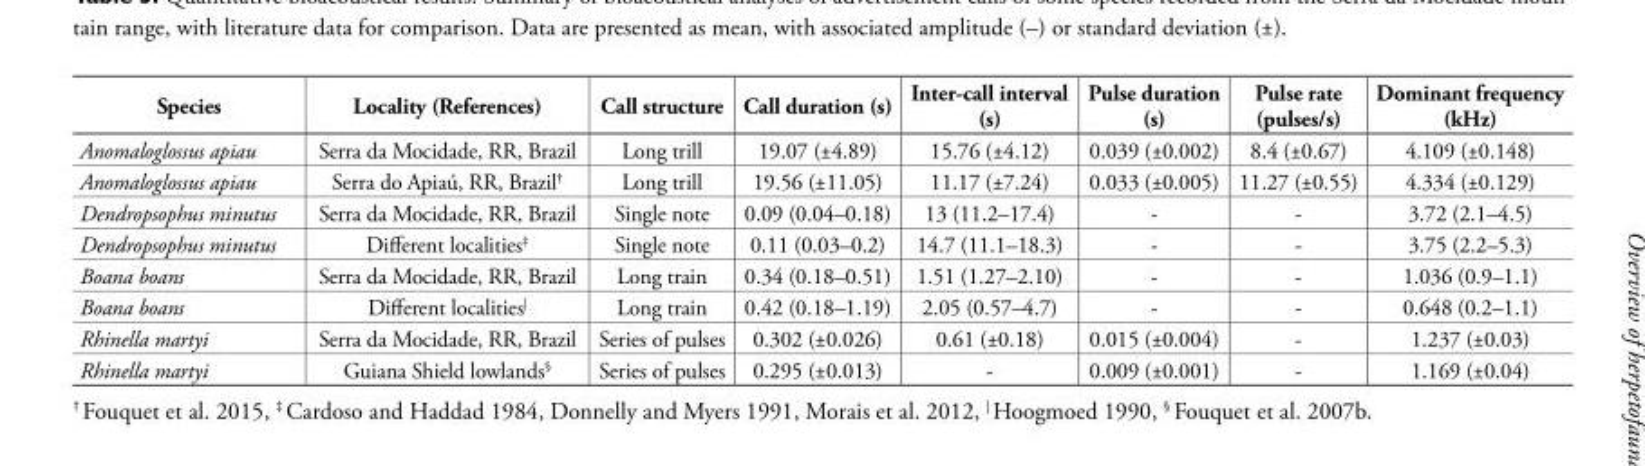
<table><thead><tr><td>Species</td><td>Locality (References)</td><td>Call structure</td><td>Call duration (s)</td><td>Inter-call interval (s)</td><td>Pulse duration (s)</td><td>Pulse rate (pulses/s)</td><td>Dominant frequency (kHz)</td></tr></thead><tbody><tr><td>Anomaloglossus apiau</td><td>Serra da Mocidade, RR, Brazil</td><td>Long trill</td><td>19.07 (±4.89)</td><td>15.76 (±4.12)</td><td>0.039 (±0.002)</td><td>8.4 (±0.67)</td><td>4.109 (±0.148)</td></tr><tr><td>Anomaloglossus apiau</td><td>Serra do Apiaú, RR, Brazil<sup>†</sup></td><td>Long trill</td><td>19.56 (±11.05)</td><td>11.17 (±7.24)</td><td>0.033 (±0.005)</td><td>11.27 (±0.55)</td><td>4.334 (±0.129)</td></tr><tr><td>Dendropsophus minutus</td><td>Serra da Mocidade, RR, Brazil</td><td>Single note</td><td>0.09 (0.04–0.18)</td><td>13 (11.2–17.4)</td><td>-</td><td>-</td><td>3.72 (2.1–4.5)</td></tr><tr><td>Dendropsophus minutus</td><td>Different localities<sup>‡</sup></td><td>Single note</td><td>0.11 (0.03–0.2)</td><td>14.7 (11.1–18.3)</td><td>-</td><td>-</td><td>3.75 (2.2–5.3)</td></tr><tr><td>Boana boans</td><td>Serra da Mocidade, RR, Brazil</td><td>Long train</td><td>0.34 (0.18–0.51)</td><td>1.51 (1.27–2.10)</td><td>-</td><td>-</td><td>1.036 (0.9–1.1)</td></tr><tr><td>Boana boans</td><td>Different localities<sup>|</sup></td><td>Long train</td><td>0.42 (0.18–1.19)</td><td>2.05 (0.57–4.7)</td><td>-</td><td>-</td><td>0.648 (0.2–1.1)</td></tr><tr><td>Rhinella martyi</td><td>Serra da Mocidade, RR, Brazil</td><td>Series of pulses</td><td>0.302 (±0.026)</td><td>0.61 (±0.18)</td><td>0.015 (±0.004)</td><td>-</td><td>1.237 (±0.03)</td></tr><tr><td>Rhinella martyi</td><td>Guiana Shield lowlands<sup>§</sup></td><td>Series of pulses</td><td>0.295 (±0.013)</td><td>-</td><td>0.009 (±0.001)</td><td>-</td><td>1.169 (±0.04)</td></tr></tbody></table>